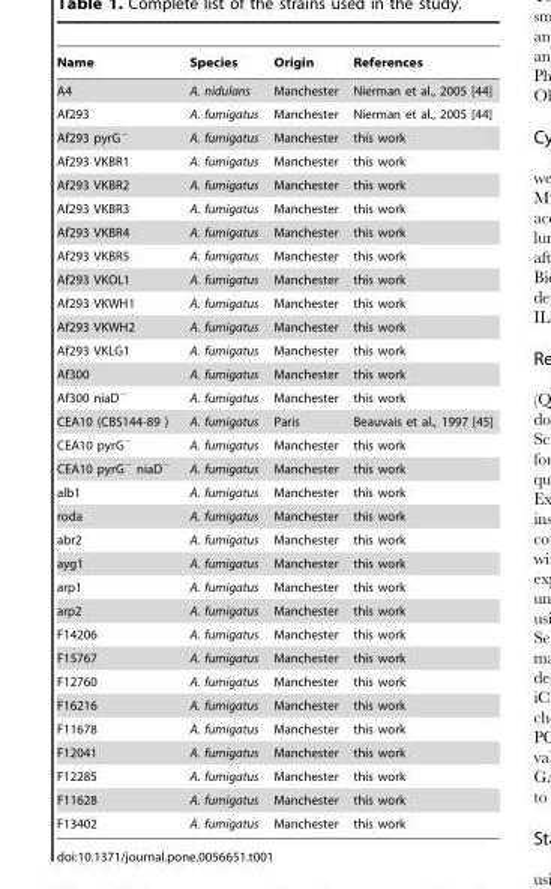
<table><thead><tr><td>Name</td><td>Species</td><td>Origin</td><td>References</td></tr></thead><tbody><tr><td>A4</td><td>A. nidulans</td><td>Manchester</td><td>Nierman et al., 2005 [44]</td></tr><tr><td>Af293</td><td>A. fumigatus</td><td>Manchester</td><td>Nierman et al., 2005 [44]</td></tr><tr><td>Af293 pyrG<sup>−</sup></td><td>A. fumigatus</td><td>Manchester</td><td>this work</td></tr><tr><td>Af293 VKBR1</td><td>A. fumigatus</td><td>Manchester</td><td>this work</td></tr><tr><td>Af293 VKBR2</td><td>A. fumigatus</td><td>Manchester</td><td>this work</td></tr><tr><td>Af293 VKBR3</td><td>A. fumigatus</td><td>Manchester</td><td>this work</td></tr><tr><td>Af293 VKBR4</td><td>A. fumigatus</td><td>Manchester</td><td>this work</td></tr><tr><td>Af293 VKBR5</td><td>A. fumigatus</td><td>Manchester</td><td>this work</td></tr><tr><td>Af293 VKOL1</td><td>A. fumigatus</td><td>Manchester</td><td>this work</td></tr><tr><td>Af293 VKWH1</td><td>A. fumigatus</td><td>Manchester</td><td>this work</td></tr><tr><td>Af293 VKWH2</td><td>A. fumigatus</td><td>Manchester</td><td>this work</td></tr><tr><td>Af293 VKLG1</td><td>A. fumigatus</td><td>Manchester</td><td>this work</td></tr><tr><td>Af300</td><td>A. fumigatus</td><td>Manchester</td><td>this work</td></tr><tr><td>Af300 niaD<sup>−</sup></td><td>A. fumigatus</td><td>Manchester</td><td>this work</td></tr><tr><td>CEA10 (CBS144-89 )</td><td>A. fumigatus</td><td>Paris</td><td>Beauvais et al., 1997 [45]</td></tr><tr><td>CEA10 pyrG<sup>−</sup></td><td>A. fumigatus</td><td>Manchester</td><td>this work</td></tr><tr><td>CEA10 pyrG<sup>−</sup> niaD<sup>−</sup></td><td>A. fumigatus</td><td>Manchester</td><td>this work</td></tr><tr><td>alb1</td><td>A. fumigatus</td><td>Manchester</td><td>this work</td></tr><tr><td>roda</td><td>A. fumigatus</td><td>Manchester</td><td>this work</td></tr><tr><td>abr2</td><td>A. fumigatus</td><td>Manchester</td><td>this work</td></tr><tr><td>ayg1</td><td>A. fumigatus</td><td>Manchester</td><td>this work</td></tr><tr><td>arp1</td><td>A. fumigatus</td><td>Manchester</td><td>this work</td></tr><tr><td>arp2</td><td>A. fumigatus</td><td>Manchester</td><td>this work</td></tr><tr><td>F14206</td><td>A. fumigatus</td><td>Manchester</td><td>this work</td></tr><tr><td>F15767</td><td>A. fumigatus</td><td>Manchester</td><td>this work</td></tr><tr><td>F12760</td><td>A. fumigatus</td><td>Manchester</td><td>this work</td></tr><tr><td>F16216</td><td>A. fumigatus</td><td>Manchester</td><td>this work</td></tr><tr><td>F11678</td><td>A. fumigatus</td><td>Manchester</td><td>this work</td></tr><tr><td>F12041</td><td>A. fumigatus</td><td>Manchester</td><td>this work</td></tr><tr><td>F12285</td><td>A. fumigatus</td><td>Manchester</td><td>this work</td></tr><tr><td>F11628</td><td>A. fumigatus</td><td>Manchester</td><td>this work</td></tr><tr><td>F13402</td><td>A. fumigatus</td><td>Manchester</td><td>this work</td></tr></tbody></table>